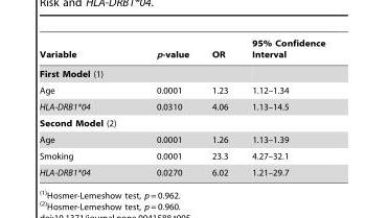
<table><thead><tr><td>Variable</td><td>p-value</td><td>OR</td><td>95% Confidence Interval</td></tr></thead><tbody><tr><td colspan="4">First Model (1)</td></tr><tr><td>Age</td><td>0.0001</td><td>1.23</td><td>1.12–1.34</td></tr><tr><td>HLA-DRB1*04</td><td>0.0310</td><td>4.06</td><td>1.13–14.5</td></tr><tr><td colspan="4">Second Model (2)</td></tr><tr><td>Age</td><td>0.0001</td><td>1.26</td><td>1.13–1.39</td></tr><tr><td>Smoking</td><td>0.0001</td><td>23.3</td><td>4.27–32.1</td></tr><tr><td>HLA-DRB1*04</td><td>0.0270</td><td>6.02</td><td>1.21–29.7</td></tr></tbody></table>